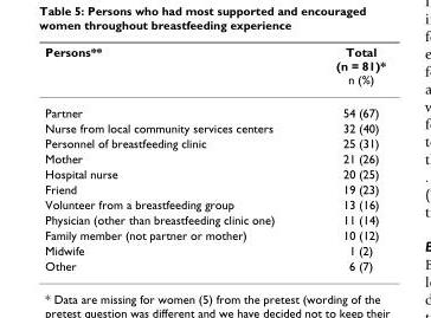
<table><thead><tr><td>Persons**</td><td>Total (n = 81)* n (%)</td></tr></thead><tbody><tr><td>Partner</td><td>54 (67)</td></tr><tr><td>Nurse from local community services centers</td><td>32 (40)</td></tr><tr><td>Personnel of breastfeeding clinic</td><td>25 (31)</td></tr><tr><td>Mother</td><td>21 (26)</td></tr><tr><td>Hospital nurse</td><td>20 (25)</td></tr><tr><td>Friend</td><td>19 (23)</td></tr><tr><td>Volunteer from a breastfeeding group</td><td>13 (16)</td></tr><tr><td>Physician (other than breastfeeding clinic one)</td><td>11 (14)</td></tr><tr><td>Family member (not partner or mother)</td><td>10 (12)</td></tr><tr><td>Midwife</td><td>1 (2)</td></tr><tr><td>Other</td><td>6 (7)</td></tr></tbody></table>